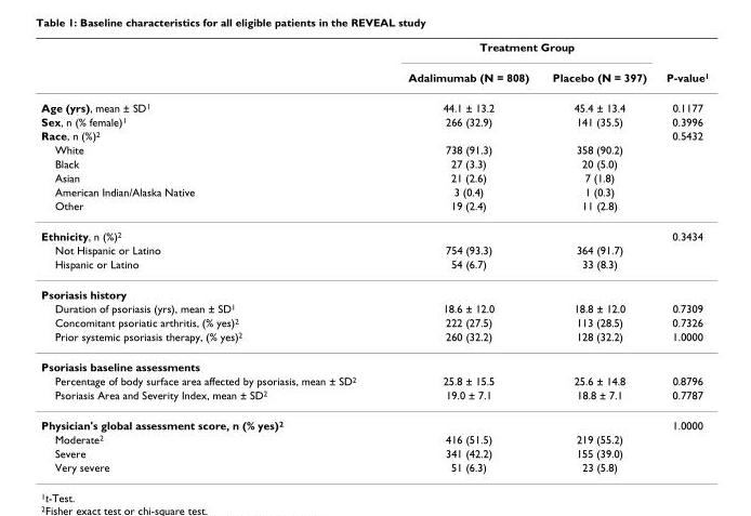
<table><thead><tr><td rowspan="2"></td><td colspan="2">Treatment Group</td><td rowspan="2">P-value<sup>1</sup></td></tr><tr><td>Adalimumab (N = 808)</td><td>Placebo (N = 397)</td></tr></thead><tbody><tr><td>Age (yrs), mean ± SD<sup>1</sup></td><td>44.1 ± 13.2</td><td>45.4 ± 13.4</td><td>0.1177</td></tr><tr><td>Sex, n (% female)<sup>1</sup></td><td>266 (32.9)</td><td>141 (35.5)</td><td>0.3996</td></tr><tr><td>Race, n (%)<sup>2</sup></td><td></td><td></td><td>0.5432</td></tr><tr><td>White</td><td>738 (91.3)</td><td>358 (90.2)</td><td></td></tr><tr><td>Black</td><td>27 (3.3)</td><td>20 (5.0)</td><td></td></tr><tr><td>Asian</td><td>21 (2.6)</td><td>7 (1.8)</td><td></td></tr><tr><td>American Indian/Alaska Native</td><td>3 (0.4)</td><td>1 (0.3)</td><td></td></tr><tr><td>Other</td><td>19 (2.4)</td><td>11 (2.8)</td><td></td></tr><tr><td>Ethnicity, n (%)<sup>2</sup></td><td></td><td></td><td>0.3434</td></tr><tr><td>Not Hispanic or Latino</td><td>754 (93.3)</td><td>364 (91.7)</td><td></td></tr><tr><td>Hispanic or Latino</td><td>54 (6.7)</td><td>33 (8.3)</td><td></td></tr><tr><td colspan="4">Psoriasis history</td></tr><tr><td>Duration of psoriasis (yrs), mean ± SD<sup>1</sup></td><td>18.6 ± 12.0</td><td>18.8 ± 12.0</td><td>0.7309</td></tr><tr><td>Concomitant psoriatic arthritis, (% yes)<sup>2</sup></td><td>222 (27.5)</td><td>113 (28.5)</td><td>0.7326</td></tr><tr><td>Prior systemic psoriasis therapy, (% yes)<sup>2</sup></td><td>260 (32.2)</td><td>128 (32.2)</td><td>1.0000</td></tr><tr><td colspan="4">Psoriasis baseline assessments</td></tr><tr><td>Percentage of body surface area affected by psoriasis, mean ± SD<sup>2</sup></td><td>25.8 ± 15.5</td><td>25.6 ± 14.8</td><td>0.8796</td></tr><tr><td>Psoriasis Area and Severity Index, mean ± SD<sup>2</sup></td><td>19.0 ± 7.1</td><td>18.8 ± 7.1</td><td>0.7787</td></tr><tr><td>Physician&#x27;s global assessment score, n (% yes)<sup>2</sup></td><td></td><td></td><td>1.0000</td></tr><tr><td>Moderate<sup>2</sup></td><td>416 (51.5)</td><td>219 (55.2)</td><td></td></tr><tr><td>Severe</td><td>341 (42.2)</td><td>155 (39.0)</td><td></td></tr><tr><td>Very severe</td><td>51 (6.3)</td><td>23 (5.8)</td><td></td></tr></tbody></table>